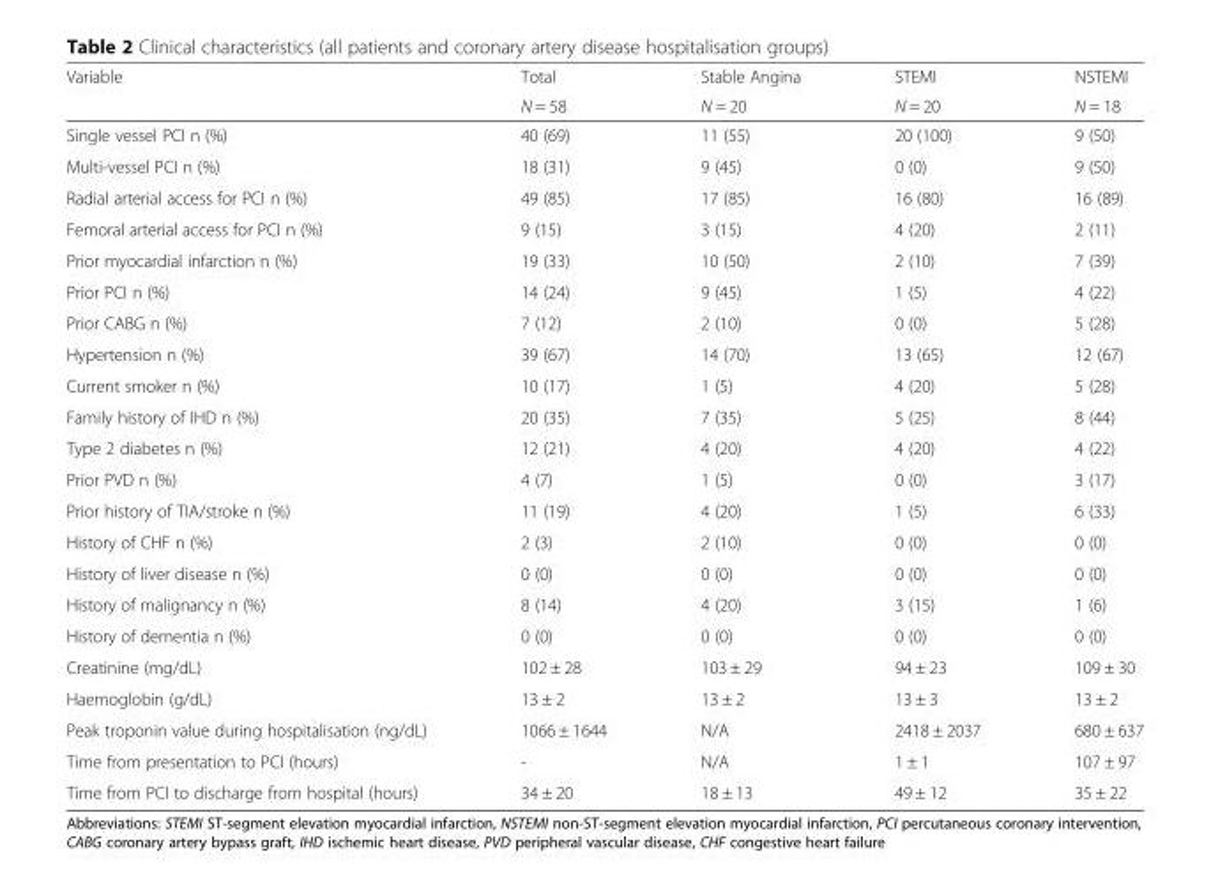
<table><thead><tr><td rowspan="2">Variable</td><td rowspan="2">Total N = 58</td><td rowspan="2">Stable Angina N = 20</td><td rowspan="2">STEMI N = 20</td><td rowspan="2">NSTEMI N = 18</td></tr><tr></tr></thead><tbody><tr><td>Single vessel PCI n (%)</td><td>40 (69)</td><td>11 (55)</td><td>20 (100)</td><td>9 (50)</td></tr><tr><td>Multi-vessel PCI n (%)</td><td>18 (31)</td><td>9 (45)</td><td>0 (0)</td><td>9 (50)</td></tr><tr><td>Radial arterial access for PCI n (%)</td><td>49 (85)</td><td>17 (85)</td><td>16 (80)</td><td>16 (89)</td></tr><tr><td>Femoral arterial access for PCI n (%)</td><td>9 (15)</td><td>3 (15)</td><td>4 (20)</td><td>2 (11)</td></tr><tr><td>Prior myocardial infarction n (%)</td><td>19 (33)</td><td>10 (50)</td><td>2 (10)</td><td>7 (39)</td></tr><tr><td>Prior PCI n (%)</td><td>14 (24)</td><td>9 (45)</td><td>1 (5)</td><td>4 (22)</td></tr><tr><td>Prior CABG n (%)</td><td>7 (12)</td><td>2 (10)</td><td>0 (0)</td><td>5 (28)</td></tr><tr><td>Hypertension n (%)</td><td>39 (67)</td><td>14 (70)</td><td>13 (65)</td><td>12 (67)</td></tr><tr><td>Current smoker n (%)</td><td>10 (17)</td><td>1 (5)</td><td>4 (20)</td><td>5 (28)</td></tr><tr><td>Family history of IHD n (%)</td><td>20 (35)</td><td>7 (35)</td><td>5 (25)</td><td>8 (44)</td></tr><tr><td>Type 2 diabetes n (%)</td><td>12 (21)</td><td>4 (20)</td><td>4 (20)</td><td>4 (22)</td></tr><tr><td>Prior PVD n (%)</td><td>4 (7)</td><td>1 (5)</td><td>0 (0)</td><td>3 (17)</td></tr><tr><td>Prior history of TIA/stroke n (%)</td><td>11 (19)</td><td>4 (20)</td><td>1 (5)</td><td>6 (33)</td></tr><tr><td>History of CHF n (%)</td><td>2 (3)</td><td>2 (10)</td><td>0 (0)</td><td>0 (0)</td></tr><tr><td>History of liver disease n (%)</td><td>0 (0)</td><td>0 (0)</td><td>0 (0)</td><td>0 (0)</td></tr><tr><td>History of malignancy n (%)</td><td>8 (14)</td><td>4 (20)</td><td>3 (15)</td><td>1 (6)</td></tr><tr><td>History of dementia n (%)</td><td>0 (0)</td><td>0 (0)</td><td>0 (0)</td><td>0 (0)</td></tr><tr><td>Creatinine (mg/dL)</td><td>102 ± 28</td><td>103 ± 29</td><td>94 ± 23</td><td>109 ± 30</td></tr><tr><td>Haemoglobin (g/dL)</td><td>13 ± 2</td><td>13 ± 2</td><td>13 ± 3</td><td>13 ± 2</td></tr><tr><td>Peak troponin value during hospitalisation (ng/dL)</td><td>1066 ± 1644</td><td>N/A</td><td>2418 ± 2037</td><td>680 ± 637</td></tr><tr><td>Time from presentation to PCI (hours)</td><td>-</td><td>N/A</td><td>1 ± 1</td><td>107 ± 97</td></tr><tr><td>Time from PCI to discharge from hospital (hours)</td><td>34 ± 20</td><td>18 ± 13</td><td>49 ± 12</td><td>35 ± 22</td></tr></tbody></table>